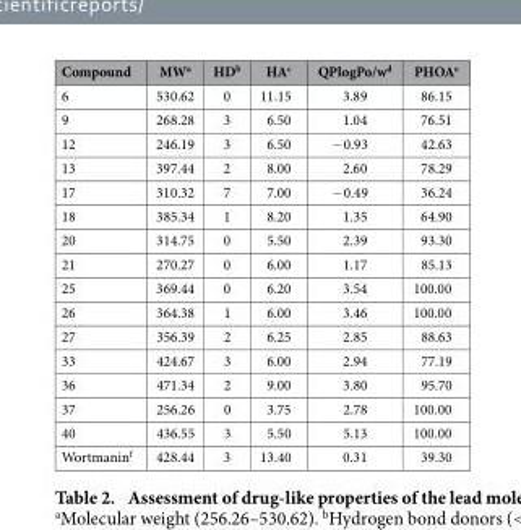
<table><thead><tr><td>Compound</td><td>MW<sup>a</sup></td><td>HD<sup>b</sup></td><td>HA<sup>c</sup></td><td>QPlogPo/w<sup>d</sup></td><td>PHOA<sup>e</sup></td></tr></thead><tbody><tr><td>6</td><td>530.62</td><td>0</td><td>11.15</td><td>3.89</td><td>86.15</td></tr><tr><td>9</td><td>268.28</td><td>3</td><td>6.50</td><td>1.04</td><td>76.51</td></tr><tr><td>12</td><td>246.19</td><td>3</td><td>6.50</td><td>− 0.93</td><td>42.63</td></tr><tr><td>13</td><td>397.44</td><td>2</td><td>8.00</td><td>2.60</td><td>78.29</td></tr><tr><td>17</td><td>310.32</td><td>7</td><td>7.00</td><td>− 0.49</td><td>36.24</td></tr><tr><td>18</td><td>385.34</td><td>1</td><td>8.20</td><td>1.35</td><td>64.90</td></tr><tr><td>20</td><td>314.75</td><td>0</td><td>5.50</td><td>2.39</td><td>93.30</td></tr><tr><td>21</td><td>270.27</td><td>0</td><td>6.00</td><td>1.17</td><td>85.13</td></tr><tr><td>25</td><td>369.44</td><td>0</td><td>6.20</td><td>3.54</td><td>100.00</td></tr><tr><td>26</td><td>364.38</td><td>1</td><td>6.00</td><td>3.46</td><td>100.00</td></tr><tr><td>27</td><td>356.39</td><td>2</td><td>6.25</td><td>2.85</td><td>88.63</td></tr><tr><td>33</td><td>424.67</td><td>3</td><td>6.00</td><td>2.94</td><td>77.19</td></tr><tr><td>36</td><td>471.34</td><td>2</td><td>9.00</td><td>3.80</td><td>95.70</td></tr><tr><td>37</td><td>256.26</td><td>0</td><td>3.75</td><td>2.78</td><td>100.00</td></tr><tr><td>40</td><td>436.55</td><td>3</td><td>5.50</td><td>5.13</td><td>100.00</td></tr><tr><td>Wortmanin<sup>f</sup></td><td>428.44</td><td>3</td><td>13.40</td><td>0.31</td><td>39.30</td></tr></tbody></table>